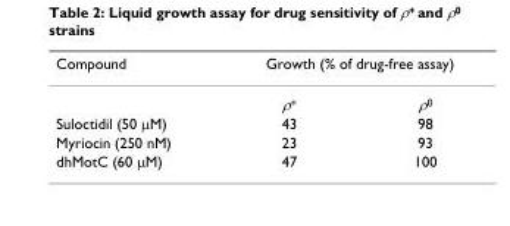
<table><thead><tr><td rowspan="2">Compound</td><td colspan="2">Growth (% of drug-free assay)</td></tr><tr><td>ρ<sup>+</sup></td><td>ρ<sup>0</sup></td></tr></thead><tbody><tr><td>Suloctidil (50 μM)</td><td>43</td><td>98</td></tr><tr><td>Myriocin (250 nM)</td><td>23</td><td>93</td></tr><tr><td>dhMotC (60 μM)</td><td>47</td><td>100</td></tr></tbody></table>